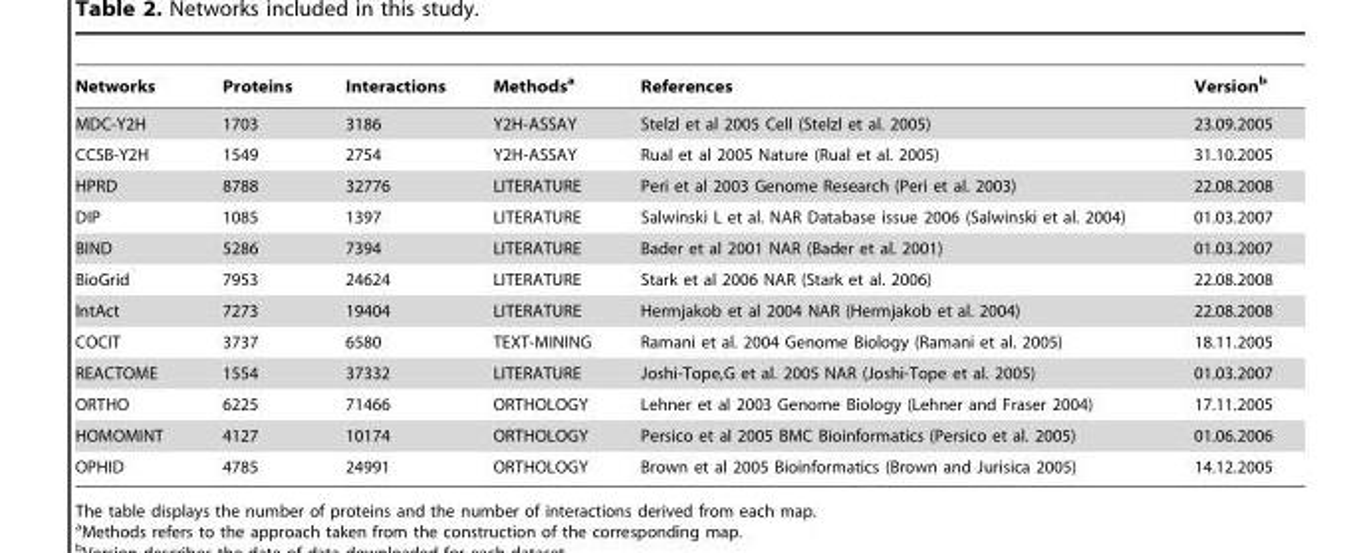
<table><thead><tr><td>Networks</td><td>Proteins</td><td>Interactions</td><td>Methods<sup>a</sup></td><td>References</td><td>Version<sup>b</sup></td></tr></thead><tbody><tr><td>MDC-Y2H</td><td>1703</td><td>3186</td><td>Y2H-ASSAY</td><td>Stelzl et al 2005 Cell (Stelzl et al. 2005)</td><td>23.09.2005</td></tr><tr><td>CCSB-Y2H</td><td>1549</td><td>2754</td><td>Y2H-ASSAY</td><td>Rual et al 2005 Nature (Rual et al. 2005)</td><td>31.10.2005</td></tr><tr><td>HPRD</td><td>8788</td><td>32776</td><td>LITERATURE</td><td>Peri et al 2003 Genome Research (Peri et al. 2003)</td><td>22.08.2008</td></tr><tr><td>DIP</td><td>1085</td><td>1397</td><td>LITERATURE</td><td>Salwinski L et al. NAR Database issue 2006 (Salwinski et al. 2004)</td><td>01.03.2007</td></tr><tr><td>BIND</td><td>5286</td><td>7394</td><td>LITERATURE</td><td>Bader et al 2001 NAR (Bader et al. 2001)</td><td>01.03.2007</td></tr><tr><td>BioGrid</td><td>7953</td><td>24624</td><td>LITERATURE</td><td>Stark et al 2006 NAR (Stark et al. 2006)</td><td>22.08.2008</td></tr><tr><td>IntAct</td><td>7273</td><td>19404</td><td>LITERATURE</td><td>Hermjakob et al 2004 NAR (Hermjakob et al. 2004)</td><td>22.08.2008</td></tr><tr><td>COCIT</td><td>3737</td><td>6580</td><td>TEXT-MINING</td><td>Ramani et al. 2004 Genome Biology (Ramani et al. 2005)</td><td>18.11.2005</td></tr><tr><td>REACTOME</td><td>1554</td><td>37332</td><td>LITERATURE</td><td>Joshi-Tope,G et al. 2005 NAR (Joshi-Tope et al. 2005)</td><td>01.03.2007</td></tr><tr><td>ORTHO</td><td>6225</td><td>71466</td><td>ORTHOLOGY</td><td>Lehner et al 2003 Genome Biology (Lehner and Fraser 2004)</td><td>17.11.2005</td></tr><tr><td>HOMOMINT</td><td>4127</td><td>10174</td><td>ORTHOLOGY</td><td>Persico et al 2005 BMC Bioinformatics (Persico et al. 2005)</td><td>01.06.2006</td></tr><tr><td>OPHID</td><td>4785</td><td>24991</td><td>ORTHOLOGY</td><td>Brown et al 2005 Bioinformatics (Brown and Jurisica 2005)</td><td>14.12.2005</td></tr></tbody></table>